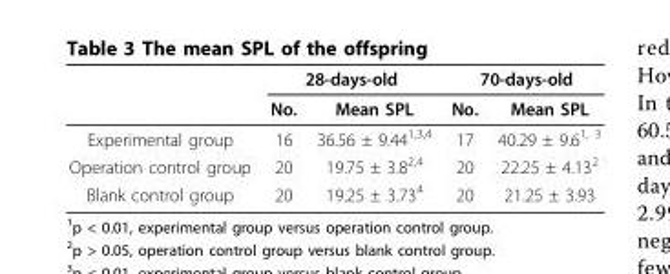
<table><thead><tr><td rowspan="2"></td><td colspan="2">28-days-old</td><td colspan="2">70-days-old</td></tr><tr><td>No.</td><td>Mean SPL</td><td>No.</td><td>Mean SPL</td></tr></thead><tbody><tr><td>Experimental group</td><td>16</td><td>36.56 ± 9.44<sup>1,3,4</sup></td><td>17</td><td>40.29 ± 9.6<sup>1, 3</sup></td></tr><tr><td>Operation control group</td><td>20</td><td>19.75 ± 3.8<sup>2,4</sup></td><td>20</td><td>22.25 ± 4.13<sup>2</sup></td></tr><tr><td>Blank control group</td><td>20</td><td>19.25 ± 3.73<sup>4</sup></td><td>20</td><td>21.25 ± 3.93</td></tr></tbody></table>